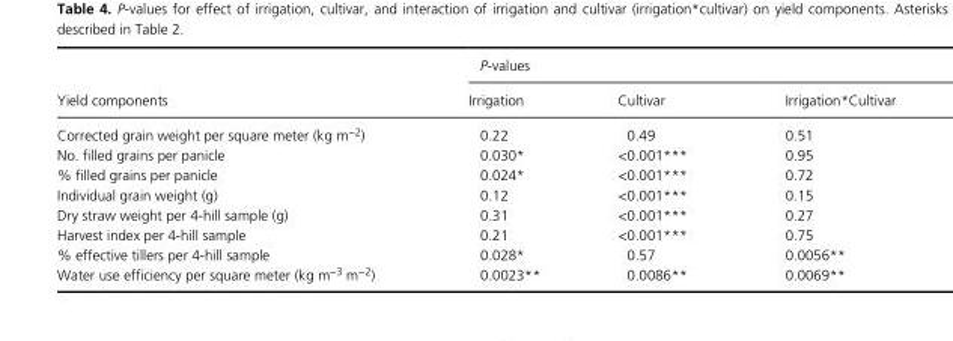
<table><thead><tr><td rowspan="2">Yield components</td><td colspan="3">P - values</td></tr><tr><td>Irrigation</td><td>Cultivar</td><td>Irrigation*Cultivar</td></tr></thead><tbody><tr><td>Corrected grain weight per square meter (kg m <sup>−2</sup> )</td><td>0.22</td><td>0.49</td><td>0.51</td></tr><tr><td>No. fi lled grains per panicle</td><td>0.030*</td><td>&lt;0.001***</td><td>0.95</td></tr><tr><td>% fi lled grains per panicle</td><td>0.024*</td><td>&lt;0.001***</td><td>0.72</td></tr><tr><td>Individual grain weight (g)</td><td>0.12</td><td>&lt;0.001***</td><td>0.15</td></tr><tr><td>Dry straw weight per 4- hill sample (g)</td><td>0.31</td><td>&lt;0.001***</td><td>0.27</td></tr><tr><td>Harvest index per 4- hill sample</td><td>0.21</td><td>&lt;0.001***</td><td>0.75</td></tr><tr><td>% effective tillers per 4- hill sample</td><td>0.028*</td><td>0.57</td><td>0.0056**</td></tr><tr><td>Water use effi ciency per square meter (kg m <sup>−3</sup> m <sup>−2</sup> )</td><td>0.0023**</td><td>0.0086**</td><td>0.0069**</td></tr></tbody></table>